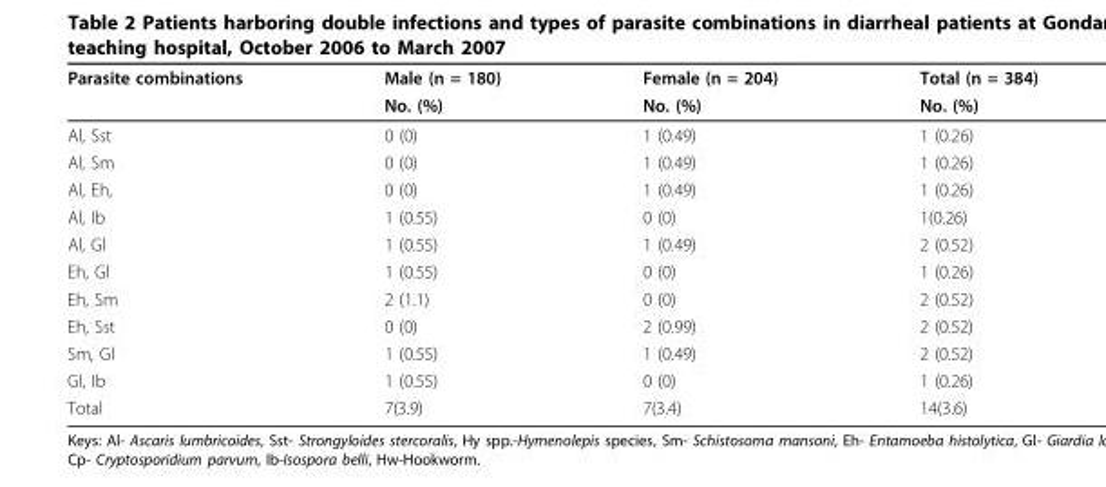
<table><thead><tr><td rowspan="2">Parasite combinations</td><td rowspan="2">Male (n = 180) No. (%)</td><td rowspan="2">Female (n = 204) No. (%)</td><td rowspan="2">Total (n = 384) No. (%)</td></tr><tr></tr></thead><tbody><tr><td>Al, Sst</td><td>0 (0)</td><td>1 (0.49)</td><td>1 (0.26)</td></tr><tr><td>Al, Sm</td><td>0 (0)</td><td>1 (0.49)</td><td>1 (0.26)</td></tr><tr><td>Al, Eh,</td><td>0 (0)</td><td>1 (0.49)</td><td>1 (0.26)</td></tr><tr><td>Al, Ib</td><td>1 (0.55)</td><td>0 (0)</td><td>1(0.26)</td></tr><tr><td>Al, Gl</td><td>1 (0.55)</td><td>1 (0.49)</td><td>2 (0.52)</td></tr><tr><td>Eh, Gl</td><td>1 (0.55)</td><td>0 (0)</td><td>1 (0.26)</td></tr><tr><td>Eh, Sm</td><td>2 (1.1)</td><td>0 (0)</td><td>2 (0.52)</td></tr><tr><td>Eh, Sst</td><td>0 (0)</td><td>2 (0.99)</td><td>2 (0.52)</td></tr><tr><td>Sm, Gl</td><td>1 (0.55)</td><td>1 (0.49)</td><td>2 (0.52)</td></tr><tr><td>Gl, Ib</td><td>1 (0.55)</td><td>0 (0)</td><td>1 (0.26)</td></tr><tr><td>Total</td><td>7(3.9)</td><td>7(3.4)</td><td>14(3.6)</td></tr></tbody></table>